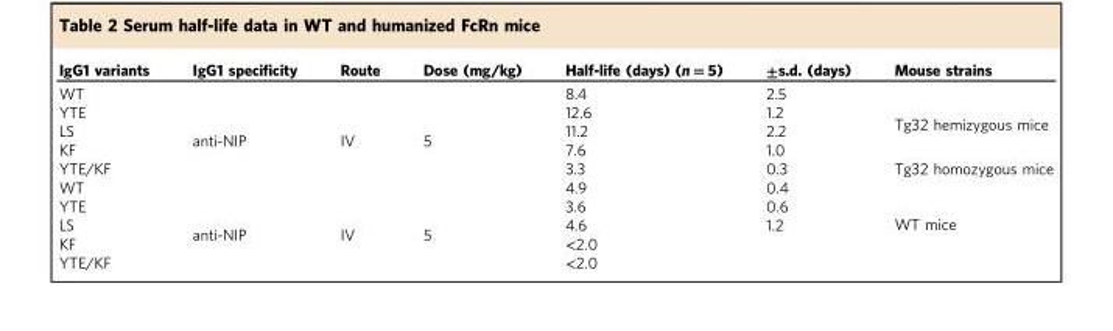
<table><thead><tr><td>IgG1 variants</td><td>IgG1 specificity</td><td>Route</td><td>Dose (mg/kg)</td><td>Half-life (days) (n = 5)</td><td>±s.d. (days)</td><td>Mouse strains</td></tr></thead><tbody><tr><td>WT</td><td></td><td></td><td></td><td>8.4</td><td>2.5</td><td rowspan="4">Tg32 hemizygous mice</td></tr><tr><td>YTE</td><td></td><td></td><td></td><td>12.6</td><td>1.2</td></tr><tr><td>LS</td><td rowspan="2">anti-NIP</td><td rowspan="2">IV</td><td rowspan="2">5</td><td>11.2</td><td>2.2</td></tr><tr><td>KF</td><td>7.6</td><td>1.0</td></tr><tr><td>YTE/KF</td><td></td><td></td><td></td><td>3.3</td><td>0.3</td><td>Tg32 homozygous mice</td></tr><tr><td>WT</td><td></td><td></td><td></td><td>4.9</td><td>0.4</td><td rowspan="5">WT mice</td></tr><tr><td>YTE</td><td></td><td></td><td></td><td>3.6</td><td>0.6</td></tr><tr><td>LS</td><td rowspan="2">anti-NIP</td><td rowspan="2">IV</td><td rowspan="2">5</td><td>4.6</td><td>1.2</td></tr><tr><td>KF</td><td>&lt;2.0</td><td></td></tr><tr><td>YTE/KF</td><td></td><td></td><td></td><td>&lt;2.0</td><td></td></tr></tbody></table>